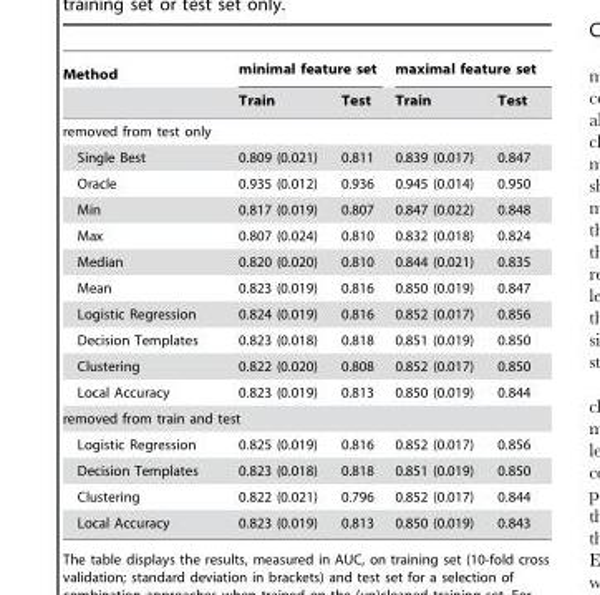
<table><thead><tr><td rowspan="2">Method</td><td colspan="2">minimal feature set</td><td colspan="2">maximal feature set</td></tr><tr><td>Train</td><td>Test</td><td>Train</td><td>Test</td></tr></thead><tbody><tr><td colspan="5">removed from test only</td></tr><tr><td>Single Best</td><td>0.809 (0.021)</td><td>0.811</td><td>0.839 (0.017)</td><td>0.847</td></tr><tr><td>Oracle</td><td>0.935 (0.012)</td><td>0.936</td><td>0.945 (0.014)</td><td>0.950</td></tr><tr><td>Min</td><td>0.817 (0.019)</td><td>0.807</td><td>0.847 (0.022)</td><td>0.848</td></tr><tr><td>Max</td><td>0.807 (0.024)</td><td>0.810</td><td>0.832 (0.018)</td><td>0.824</td></tr><tr><td>Median</td><td>0.820 (0.020)</td><td>0.810</td><td>0.844 (0.021)</td><td>0.835</td></tr><tr><td>Mean</td><td>0.823 (0.019)</td><td>0.816</td><td>0.850 (0.019)</td><td>0.847</td></tr><tr><td>Logistic Regression</td><td>0.824 (0.019)</td><td>0.816</td><td>0.852 (0.017)</td><td>0.856</td></tr><tr><td>Decision Templates</td><td>0.823 (0.018)</td><td>0.818</td><td>0.851 (0.019)</td><td>0.850</td></tr><tr><td>Clustering</td><td>0.822 (0.020)</td><td>0.808</td><td>0.852 (0.017)</td><td>0.850</td></tr><tr><td>Local Accuracy</td><td>0.823 (0.019)</td><td>0.813</td><td>0.850 (0.019)</td><td>0.844</td></tr><tr><td colspan="5">removed from train and test</td></tr><tr><td>Logistic Regression</td><td>0.825 (0.019)</td><td>0.816</td><td>0.852 (0.017)</td><td>0.856</td></tr><tr><td>Decision Templates</td><td>0.823 (0.018)</td><td>0.818</td><td>0.851 (0.019)</td><td>0.850</td></tr><tr><td>Clustering</td><td>0.822 (0.021)</td><td>0.796</td><td>0.852 (0.017)</td><td>0.844</td></tr><tr><td>Local Accuracy</td><td>0.823 (0.019)</td><td>0.813</td><td>0.850 (0.019)</td><td>0.843</td></tr></tbody></table>